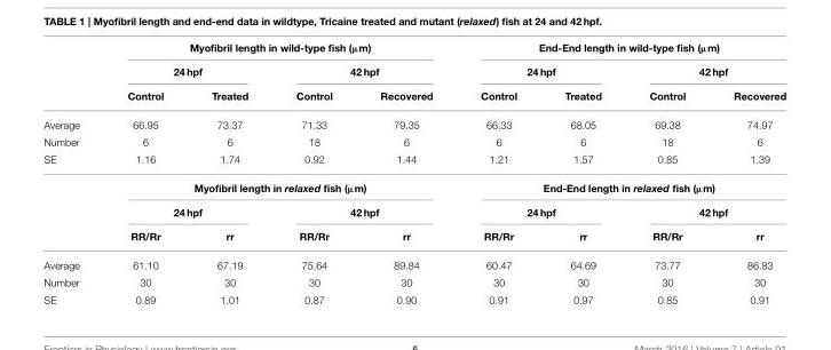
<table><thead><tr><td rowspan="3"></td><td colspan="4">Myofibril length in wild-type fish (µm)</td><td colspan="4">End-End length in wild-type fish (µm)</td></tr><tr><td colspan="2">24 hpf</td><td colspan="2">42 hpf</td><td colspan="2">24 hpf</td><td colspan="2">42 hpf</td></tr><tr><td>Control</td><td>Treated</td><td>Control</td><td>Recovered</td><td>Control</td><td>Treated</td><td>Control</td><td>Recovered</td></tr></thead><tbody><tr><td>Average</td><td>66.95</td><td>73.37</td><td>71.33</td><td>79.35</td><td>66.33</td><td>68.05</td><td>69.38</td><td>74.97</td></tr><tr><td>Number</td><td>6</td><td>6</td><td>18</td><td>6</td><td>6</td><td>6</td><td>18</td><td>6</td></tr><tr><td rowspan="4">SE</td><td>1.16</td><td>1.74</td><td>0.92</td><td>1.44</td><td>1.21</td><td>1.57</td><td>0.85</td><td>1.39</td></tr><tr><td colspan="4">Myofibril length in relaxed fish (µm)</td><td colspan="4">End-End length in relaxed fish (µm)</td></tr><tr><td colspan="2">24 hpf</td><td colspan="2">42 hpf</td><td colspan="2">24 hpf</td><td colspan="2">42 hpf</td></tr><tr><td>RR/Rr</td><td>rr</td><td>RR/Rr</td><td>rr</td><td>RR/Rr</td><td>rr</td><td>RR/Rr</td><td>rr</td></tr><tr><td>Average</td><td>61.10</td><td>67.19</td><td>75.64</td><td>89.84</td><td>60.47</td><td>64.69</td><td>73.77</td><td>86.83</td></tr><tr><td>Number</td><td>30</td><td>30</td><td>30</td><td>30</td><td>30</td><td>30</td><td>30</td><td>30</td></tr><tr><td>SE</td><td>0.89</td><td>1.01</td><td>0.87</td><td>0.90</td><td>0.91</td><td>0.97</td><td>0.85</td><td>0.91</td></tr></tbody></table>